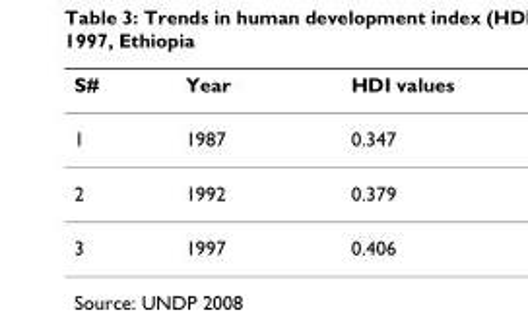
<table><thead><tr><td>S#</td><td>Year</td><td>HDI values</td></tr></thead><tbody><tr><td>1</td><td>1987</td><td>0.347</td></tr><tr><td>2</td><td>1992</td><td>0.379</td></tr><tr><td>3</td><td>1997</td><td>0.406</td></tr></tbody></table>